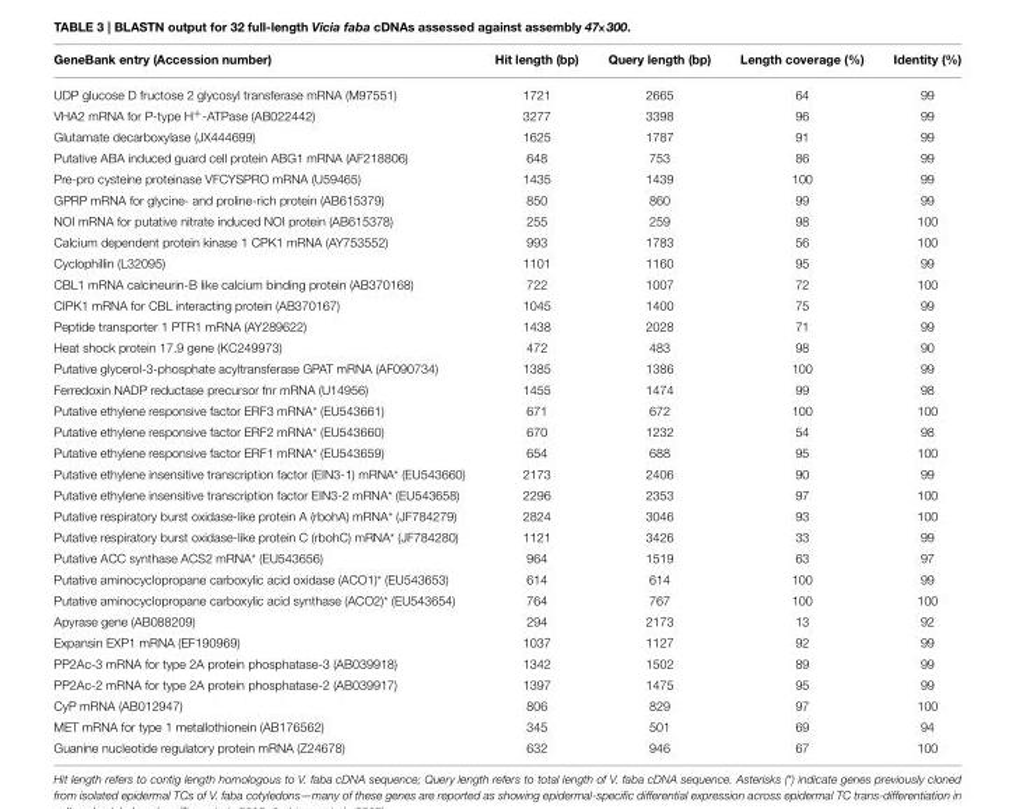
<table><thead><tr><td>GeneBank entry (Accession number)</td><td>Hit length (bp)</td><td>Query length (bp)</td><td>Length coverage (%)</td><td>Identity (%)</td></tr></thead><tbody><tr><td>UDP glucose D fructose 2 glycosyl transferase mRNA (M97551)</td><td>1721</td><td>2665</td><td>64</td><td>99</td></tr><tr><td>VHA2 mRNA for P-type H<sup>+</sup>-ATPase (AB022442)</td><td>3277</td><td>3398</td><td>96</td><td>99</td></tr><tr><td>Glutamate decarboxylase (JX444699)</td><td>1625</td><td>1787</td><td>91</td><td>99</td></tr><tr><td>Putative ABA induced guard cell protein ABG1 mRNA (AF218806)</td><td>648</td><td>753</td><td>86</td><td>99</td></tr><tr><td>Pre-pro cysteine proteinase VFCYSPRO mRNA (U59465)</td><td>1435</td><td>1439</td><td>100</td><td>99</td></tr><tr><td>GPRP mRNA for glycine- and proline-rich protein (AB615379)</td><td>850</td><td>860</td><td>99</td><td>99</td></tr><tr><td>NOI mRNA for putative nitrate induced NOI protein (AB615378)</td><td>255</td><td>259</td><td>98</td><td>100</td></tr><tr><td>Calcium dependent protein kinase 1 CPK1 mRNA (AY753552)</td><td>993</td><td>1783</td><td>56</td><td>100</td></tr><tr><td>Cyclophillin (L32095)</td><td>1101</td><td>1160</td><td>95</td><td>99</td></tr><tr><td>CBL1 mRNA calcineurin-B like calcium binding protein (AB370168)</td><td>722</td><td>1007</td><td>72</td><td>100</td></tr><tr><td>CIPK1 mRNA for CBL interacting protein (AB370167)</td><td>1045</td><td>1400</td><td>75</td><td>99</td></tr><tr><td>Peptide transporter 1 PTR1 mRNA (AY289622)</td><td>1438</td><td>2028</td><td>71</td><td>99</td></tr><tr><td>Heat shock protein 17.9 gene (KC249973)</td><td>472</td><td>483</td><td>98</td><td>90</td></tr><tr><td>Putative glycerol-3-phosphate acyltransferase GPAT mRNA (AF090734)</td><td>1385</td><td>1386</td><td>100</td><td>99</td></tr><tr><td>Ferredoxin NADP reductase precursor fnr mRNA (U14956)</td><td>1455</td><td>1474</td><td>99</td><td>98</td></tr><tr><td>Putative ethylene responsive factor ERF3 mRNA* (EU543661)</td><td>671</td><td>672</td><td>100</td><td>100</td></tr><tr><td>Putative ethylene responsive factor ERF2 mRNA* (EU543660)</td><td>670</td><td>1232</td><td>54</td><td>98</td></tr><tr><td>Putative ethylene responsive factor ERF1 mRNA* (EU543659)</td><td>654</td><td>688</td><td>95</td><td>100</td></tr><tr><td>Putative ethylene insensitive transcription factor (EIN3-1) mRNA* (EU543660)</td><td>2173</td><td>2406</td><td>90</td><td>99</td></tr><tr><td>Putative ethylene insensitive transcription factor EIN3-2 mRNA* (EU543658)</td><td>2296</td><td>2353</td><td>97</td><td>100</td></tr><tr><td>Putative respiratory burst oxidase-like protein A (rbohA) mRNA* (JF784279)</td><td>2824</td><td>3046</td><td>93</td><td>100</td></tr><tr><td>Putative respiratory burst oxidase-like protein C (rbohC) mRNA* (JF784280)</td><td>1121</td><td>3426</td><td>33</td><td>99</td></tr><tr><td>Putative ACC synthase ACS2 mRNA* (EU543656)</td><td>964</td><td>1519</td><td>63</td><td>97</td></tr><tr><td>Putative aminocyclopropane carboxylic acid oxidase (ACO1)* (EU543653)</td><td>614</td><td>614</td><td>100</td><td>99</td></tr><tr><td>Putative aminocyclopropane carboxylic acid synthase (ACO2)* (EU543654)</td><td>764</td><td>767</td><td>100</td><td>100</td></tr><tr><td>Apyrase gene (AB088209)</td><td>294</td><td>2173</td><td>13</td><td>92</td></tr><tr><td>Expansin EXP1 mRNA (EF190969)</td><td>1037</td><td>1127</td><td>92</td><td>99</td></tr><tr><td>PP2Ac-3 mRNA for type 2A protein phosphatase-3 (AB039918)</td><td>1342</td><td>1502</td><td>89</td><td>99</td></tr><tr><td>PP2Ac-2 mRNA for type 2A protein phosphatase-2 (AB039917)</td><td>1397</td><td>1475</td><td>95</td><td>99</td></tr><tr><td>CyP mRNA (AB012947)</td><td>806</td><td>829</td><td>97</td><td>100</td></tr><tr><td>MET mRNA for type 1 metallothionein (AB176562)</td><td>345</td><td>501</td><td>69</td><td>94</td></tr><tr><td>Guanine nucleotide regulatory protein mRNA (Z24678)</td><td>632</td><td>946</td><td>67</td><td>100</td></tr></tbody></table>